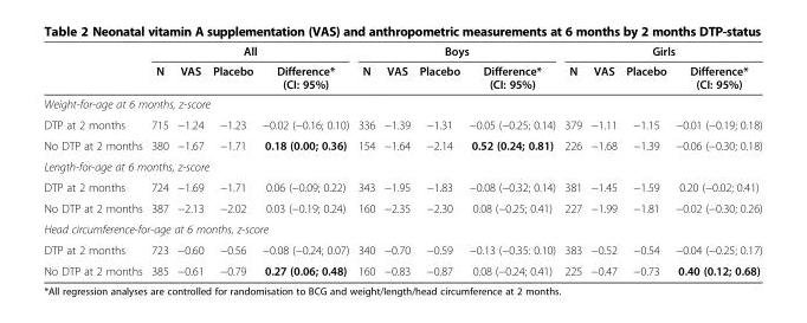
<table><thead><tr><td rowspan="2"></td><td colspan="4">All</td><td colspan="4">Boys</td><td colspan="4">Girls</td></tr><tr><td>N</td><td>VAS</td><td>Placebo</td><td>Difference* (CI: 95%)</td><td>N</td><td>VAS</td><td>Placebo</td><td>Difference* (CI: 95%)</td><td>N</td><td>VAS</td><td>Placebo</td><td>Difference* (CI: 95%)</td></tr></thead><tbody><tr><td colspan="13">Weight-for-age at 6 months, z-score</td></tr><tr><td>DTP at 2 months</td><td>715</td><td>−1.24</td><td>−1.23</td><td>−0.02 (−0.16; 0.10)</td><td>336</td><td>−1.39</td><td>−1.31</td><td>−0.05 (−0.25; 0.14)</td><td>379</td><td>−1.11</td><td>−1.15</td><td>−0.01 (−0.19; 0.18)</td></tr><tr><td>No DTP at 2 months</td><td>380</td><td>−1.67</td><td>−1.71</td><td>0.18 (0.00; 0.36)</td><td>154</td><td>−1.64</td><td>−2.14</td><td>0.52 (0.24; 0.81)</td><td>226</td><td>−1.68</td><td>−1.39</td><td>−0.06 (−0.30; 0.18)</td></tr><tr><td colspan="13">Length-for-age at 6 months, z-score</td></tr><tr><td>DTP at 2 months</td><td>724</td><td>−1.69</td><td>−1.71</td><td>0.06 (−0.09; 0.22)</td><td>343</td><td>−1.95</td><td>−1.83</td><td>−0.08 (−0.32; 0.14)</td><td>381</td><td>−1.45</td><td>−1.59</td><td>0.20 (−0.02; 0.41)</td></tr><tr><td>No DTP at 2 months</td><td>387</td><td>−2.13</td><td>−2.02</td><td>0.03 (−0.19; 0.24)</td><td>160</td><td>−2.35</td><td>−2.30</td><td>0.08 (−0.25; 0.41)</td><td>227</td><td>−1.99</td><td>−1.81</td><td>−0.02 (−0.30; 0.26)</td></tr><tr><td colspan="13">Head circumference-for-age at 6 months, z-score</td></tr><tr><td>DTP at 2 months</td><td>723</td><td>−0.60</td><td>−0.56</td><td>−0.08 (−0.24; 0.07)</td><td>340</td><td>−0.70</td><td>−0.59</td><td>−0.13 (−0.35: 0.10)</td><td>383</td><td>−0.52</td><td>−0.54</td><td>−0.04 (−0.25; 0.17)</td></tr><tr><td>No DTP at 2 months</td><td>385</td><td>−0.61</td><td>−0.79</td><td>0.27 (0.06; 0.48)</td><td>160</td><td>−0.83</td><td>−0.87</td><td>0.08 (−0.24; 0.41)</td><td>225</td><td>−0.47</td><td>−0.73</td><td>0.40 (0.12; 0.68)</td></tr></tbody></table>